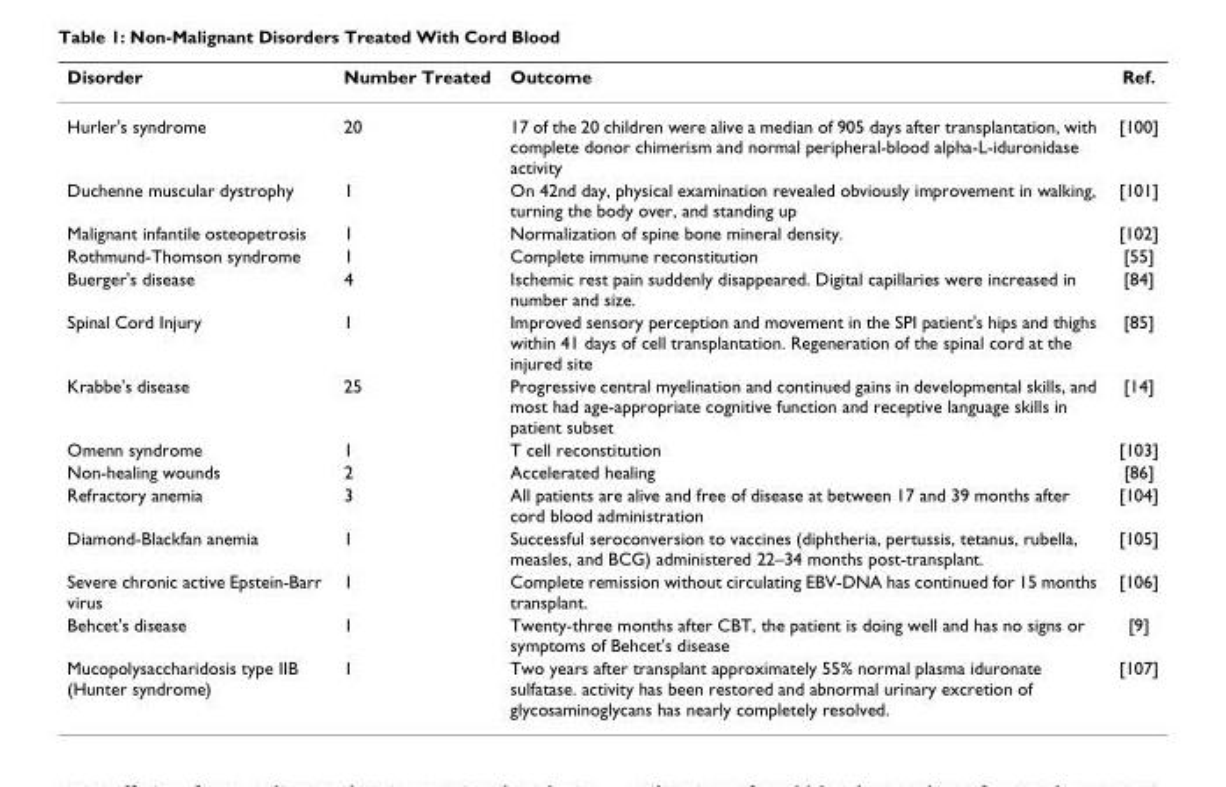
<table><thead><tr><td>Disorder</td><td>Number Treated</td><td>Outcome</td><td>Ref.</td></tr></thead><tbody><tr><td>Hurler&#x27;s syndrome</td><td>20</td><td>17 of the 20 children were alive a median of 905 days after transplantation, with complete donor chimerism and normal peripheral-blood alpha-L-iduronidase activity</td><td>[100]</td></tr><tr><td>Duchenne muscular dystrophy</td><td>1</td><td>On 42nd day, physical examination revealed obviously improvement in walking, turning the body over, and standing up</td><td>[101]</td></tr><tr><td>Malignant infantile osteopetrosis</td><td>1</td><td>Normalization of spine bone mineral density.</td><td>[102]</td></tr><tr><td>Rothmund-Thomson syndrome</td><td>1</td><td>Complete immune reconstitution</td><td>[55]</td></tr><tr><td>Buerger&#x27;s disease</td><td>4</td><td>Ischemic rest pain suddenly disappeared. Digital capillaries were increased in number and size.</td><td>[84]</td></tr><tr><td>Spinal Cord Injury</td><td>1</td><td>Improved sensory perception and movement in the SPI patient&#x27;s hips and thighs within 41 days of cell transplantation. Regeneration of the spinal cord at the injured site</td><td>[85]</td></tr><tr><td>Krabbe&#x27;s disease</td><td>25</td><td>Progressive central myelination and continued gains in developmental skills, and most had age-appropriate cognitive function and receptive language skills in patient subset</td><td>[14]</td></tr><tr><td>Omenn syndrome</td><td>1</td><td>T cell reconstitution</td><td>[103]</td></tr><tr><td>Non-healing wounds</td><td>2</td><td>Accelerated healing</td><td>[86]</td></tr><tr><td>Refractory anemia</td><td>3</td><td>All patients are alive and free of disease at between 17 and 39 months after cord blood administration</td><td>[104]</td></tr><tr><td>Diamond-Blackfan anemia</td><td>1</td><td>Successful seroconversion to vaccines (diphtheria, pertussis, tetanus, rubella, measles, and BCG) administered 22–34 months post-transplant.</td><td>[105]</td></tr><tr><td>Severe chronic active Epstein-Barr virus</td><td>1</td><td>Complete remission without circulating EBV-DNA has continued for 15 months transplant.</td><td>[106]</td></tr><tr><td>Behcet&#x27;s disease</td><td>1</td><td>Twenty-three months after CBT, the patient is doing well and has no signs or symptoms of Behcet&#x27;s disease</td><td>[9]</td></tr><tr><td>Mucopolysaccharidosis type IIB (Hunter syndrome)</td><td>1</td><td>Two years after transplant approximately 55% normal plasma iduronate sulfatase. activity has been restored and abnormal urinary excretion of glycosaminoglycans has nearly completely resolved.</td><td>[107]</td></tr></tbody></table>